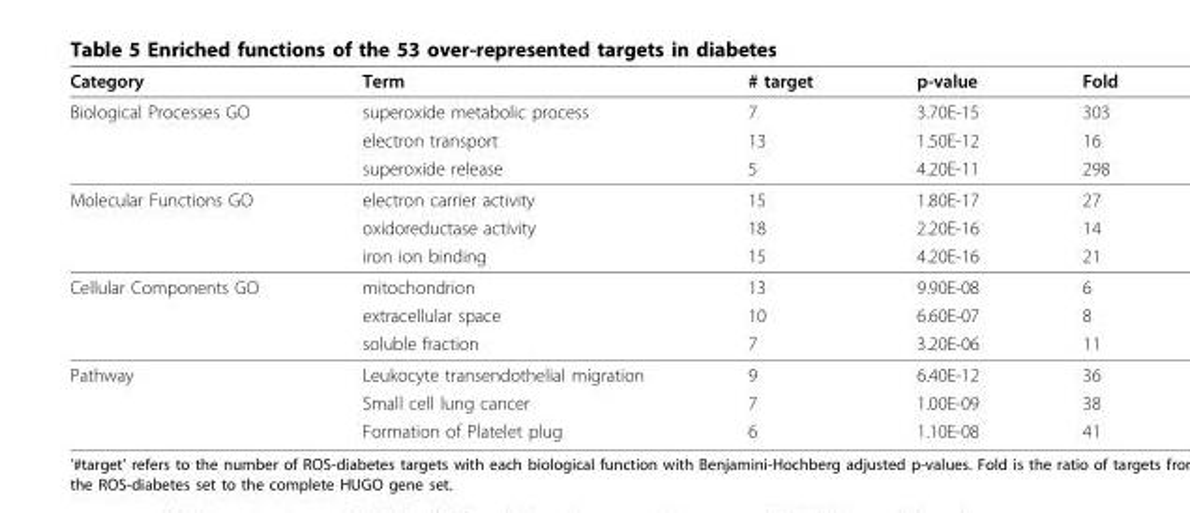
<table><thead><tr><td>Category</td><td>Term</td><td># target</td><td>p-value</td><td>Fold</td></tr></thead><tbody><tr><td rowspan="3">Biological Processes GO</td><td>superoxide metabolic process</td><td>7</td><td>3.70E-15</td><td>303</td></tr><tr><td>electron transport</td><td>13</td><td>1.50E-12</td><td>16</td></tr><tr><td>superoxide release</td><td>5</td><td>4.20E-11</td><td>298</td></tr><tr><td rowspan="3">Molecular Functions GO</td><td>electron carrier activity</td><td>15</td><td>1.80E-17</td><td>27</td></tr><tr><td>oxidoreductase activity</td><td>18</td><td>2.20E-16</td><td>14</td></tr><tr><td>iron ion binding</td><td>15</td><td>4.20E-16</td><td>21</td></tr><tr><td rowspan="3">Cellular Components GO</td><td>mitochondrion</td><td>13</td><td>9.90E-08</td><td>6</td></tr><tr><td>extracellular space</td><td>10</td><td>6.60E-07</td><td>8</td></tr><tr><td>soluble fraction</td><td>7</td><td>3.20E-06</td><td>11</td></tr><tr><td rowspan="3">Pathway</td><td>Leukocyte transendothelial migration</td><td>9</td><td>6.40E-12</td><td>36</td></tr><tr><td>Small cell lung cancer</td><td>7</td><td>1.00E-09</td><td>38</td></tr><tr><td>Formation of Platelet plug</td><td>6</td><td>1.10E-08</td><td>41</td></tr></tbody></table>